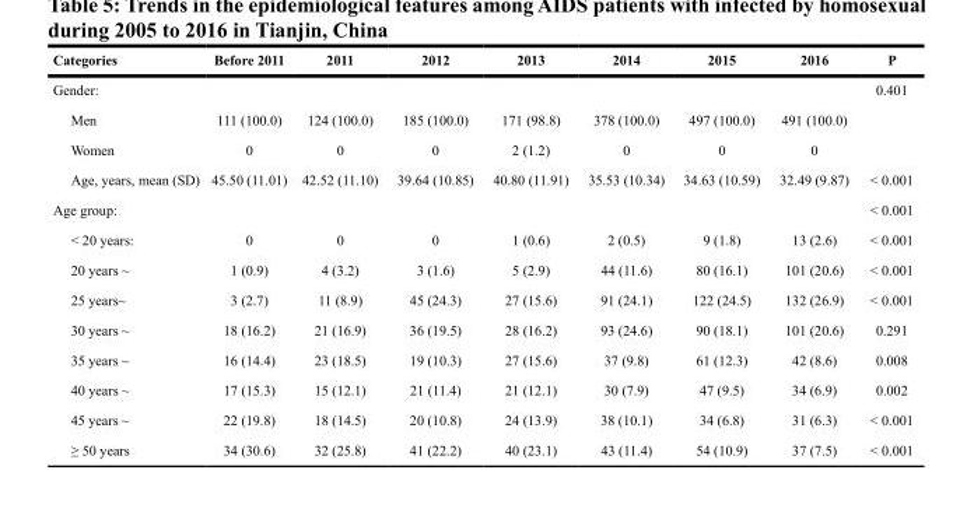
<table><thead><tr><td>Categories</td><td>Before 2011</td><td>2011</td><td>2012</td><td>2013</td><td>2014</td><td>2015</td><td>2016</td><td>P</td></tr></thead><tbody><tr><td>Gender:</td><td></td><td></td><td></td><td></td><td></td><td></td><td></td><td>0.401</td></tr><tr><td>Men</td><td>111 (100.0)</td><td>124 (100.0)</td><td>185 (100.0)</td><td>171 (98.8)</td><td>378 (100.0)</td><td>497 (100.0)</td><td>491 (100.0)</td><td></td></tr><tr><td>Women</td><td>0</td><td>0</td><td>0</td><td>2 (1.2)</td><td>0</td><td>0</td><td>0</td><td></td></tr><tr><td>Age, years, mean (SD)</td><td>45.50 (11.01)</td><td>42.52 (11.10)</td><td>39.64 (10.85)</td><td>40.80 (11.91)</td><td>35.53 (10.34)</td><td>34.63 (10.59)</td><td>32.49 (9.87)</td><td>&lt; 0.001</td></tr><tr><td>Age group:</td><td></td><td></td><td></td><td></td><td></td><td></td><td></td><td>&lt; 0.001</td></tr><tr><td>&lt; 20 years:</td><td>0</td><td>0</td><td>0</td><td>1 (0.6)</td><td>2 (0.5)</td><td>9 (1.8)</td><td>13 (2.6)</td><td>&lt; 0.001</td></tr><tr><td>20 years ~</td><td>1 (0.9)</td><td>4 (3.2)</td><td>3 (1.6)</td><td>5 (2.9)</td><td>44 (11.6)</td><td>80 (16.1)</td><td>101 (20.6)</td><td>&lt; 0.001</td></tr><tr><td>25 years~</td><td>3 (2.7)</td><td>11 (8.9)</td><td>45 (24.3)</td><td>27 (15.6)</td><td>91 (24.1)</td><td>122 (24.5)</td><td>132 (26.9)</td><td>&lt; 0.001</td></tr><tr><td>30 years ~</td><td>18 (16.2)</td><td>21 (16.9)</td><td>36 (19.5)</td><td>28 (16.2)</td><td>93 (24.6)</td><td>90 (18.1)</td><td>101 (20.6)</td><td>0.291</td></tr><tr><td>35 years ~</td><td>16 (14.4)</td><td>23 (18.5)</td><td>19 (10.3)</td><td>27 (15.6)</td><td>37 (9.8)</td><td>61 (12.3)</td><td>42 (8.6)</td><td>0.008</td></tr><tr><td>40 years ~</td><td>17 (15.3)</td><td>15 (12.1)</td><td>21 (11.4)</td><td>21 (12.1)</td><td>30 (7.9)</td><td>47 (9.5)</td><td>34 (6.9)</td><td>0.002</td></tr><tr><td>45 years ~</td><td>22 (19.8)</td><td>18 (14.5)</td><td>20 (10.8)</td><td>24 (13.9)</td><td>38 (10.1)</td><td>34 (6.8)</td><td>31 (6.3)</td><td>&lt; 0.001</td></tr><tr><td>≥ 50 years</td><td>34 (30.6)</td><td>32 (25.8)</td><td>41 (22.2)</td><td>40 (23.1)</td><td>43 (11.4)</td><td>54 (10.9)</td><td>37 (7.5)</td><td>&lt; 0.001</td></tr></tbody></table>